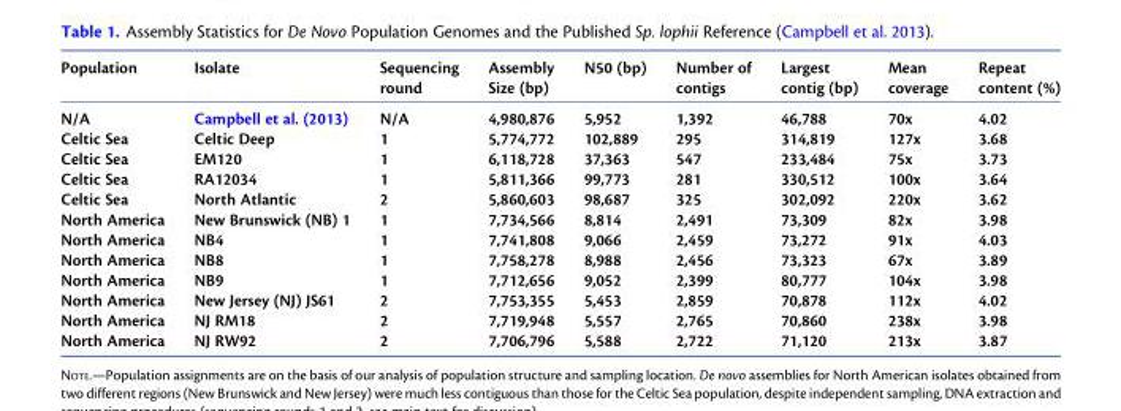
<table><thead><tr><td>Population</td><td>Isolate</td><td>Sequencing round</td><td>Assembly Size (bp)</td><td>N50 (bp)</td><td>Number of contigs</td><td>Largest contig (bp)</td><td>Mean coverage</td><td>Repeat content (%)</td></tr></thead><tbody><tr><td>N/A</td><td>Campbell et al. (2013)</td><td>N/A</td><td>4,980,876</td><td>5,952</td><td>1,392</td><td>46,788</td><td>70x</td><td>4.02</td></tr><tr><td>Celtic Sea</td><td>Celtic Deep</td><td>1</td><td>5,774,772</td><td>102,889</td><td>295</td><td>314,819</td><td>127x</td><td>3.68</td></tr><tr><td>Celtic Sea</td><td>EM120</td><td>1</td><td>6,118,728</td><td>37,363</td><td>547</td><td>233,484</td><td>75x</td><td>3.73</td></tr><tr><td>Celtic Sea</td><td>RA12034</td><td>1</td><td>5,811,366</td><td>99,773</td><td>281</td><td>330,512</td><td>100x</td><td>3.64</td></tr><tr><td>Celtic Sea</td><td>North Atlantic</td><td>2</td><td>5,860,603</td><td>98,687</td><td>325</td><td>302,092</td><td>220x</td><td>3.62</td></tr><tr><td>North America</td><td>New Brunswick (NB) 1</td><td>1</td><td>7,734,566</td><td>8,814</td><td>2,491</td><td>73,309</td><td>82x</td><td>3.98</td></tr><tr><td>North America</td><td>NB4</td><td>1</td><td>7,741,808</td><td>9,066</td><td>2,459</td><td>73,272</td><td>91x</td><td>4.03</td></tr><tr><td>North America</td><td>NB8</td><td>1</td><td>7,758,278</td><td>8,988</td><td>2,456</td><td>73,323</td><td>67x</td><td>3.89</td></tr><tr><td>North America</td><td>NB9</td><td>1</td><td>7,712,656</td><td>9,052</td><td>2,399</td><td>80,777</td><td>104x</td><td>3.98</td></tr><tr><td>North America</td><td>New Jersey (NJ) JS61</td><td>2</td><td>7,753,355</td><td>5,453</td><td>2,859</td><td>70,878</td><td>112x</td><td>4.02</td></tr><tr><td>North America</td><td>NJ RM18</td><td>2</td><td>7,719,948</td><td>5,557</td><td>2,765</td><td>70,860</td><td>238x</td><td>3.98</td></tr><tr><td>North America</td><td>NJ RW92</td><td>2</td><td>7,706,796</td><td>5,588</td><td>2,722</td><td>71,120</td><td>213x</td><td>3.87</td></tr></tbody></table>